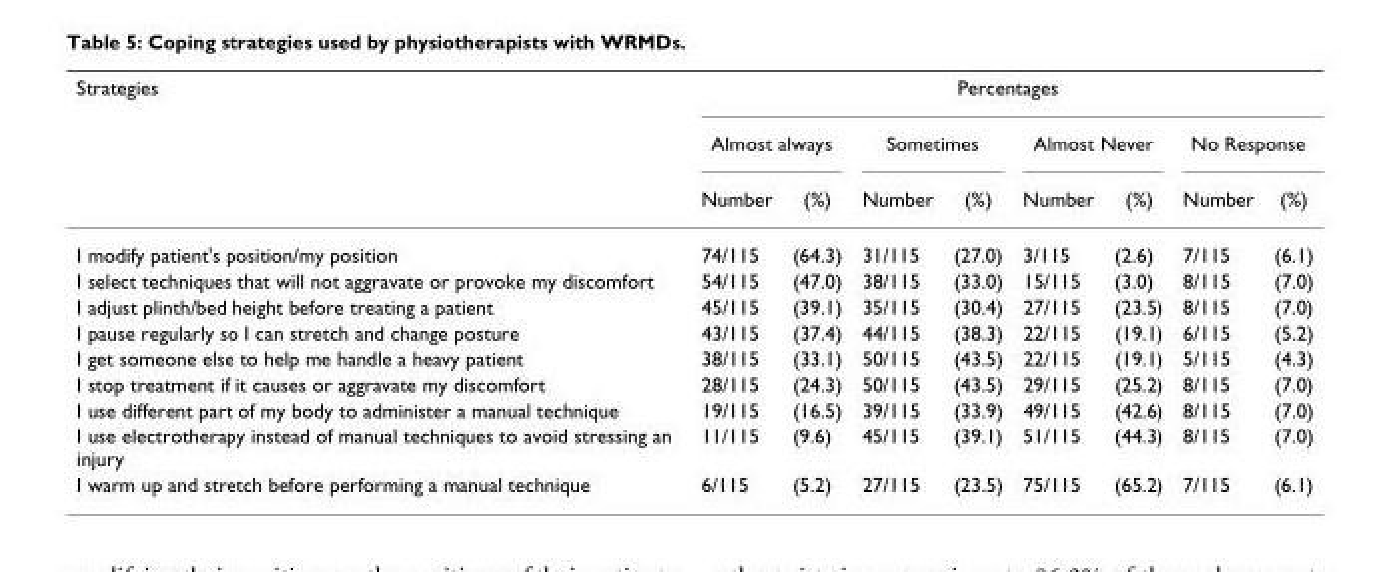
<table><thead><tr><td rowspan="3">Strategies</td><td colspan="8">Percentages</td></tr><tr><td colspan="2">Almost always</td><td colspan="2">Sometimes</td><td colspan="2">Almost Never</td><td colspan="2">No Response</td></tr><tr><td>Number</td><td>(%)</td><td>Number</td><td>(%)</td><td>Number</td><td>(%)</td><td>Number</td><td>(%)</td></tr></thead><tbody><tr><td>I modify patient&#x27;s position/my position</td><td>74/115</td><td>(64.3)</td><td>31/115</td><td>(27.0)</td><td>3/115</td><td>(2.6)</td><td>7/115</td><td>(6.1)</td></tr><tr><td>I select techniques that will not aggravate or provoke my discomfort</td><td>54/115</td><td>(47.0)</td><td>38/115</td><td>(33.0)</td><td>15/115</td><td>(3.0)</td><td>8/115</td><td>(7.0)</td></tr><tr><td>I adjust plinth/bed height before treating a patient</td><td>45/115</td><td>(39.1)</td><td>35/115</td><td>(30.4)</td><td>27/115</td><td>(23.5)</td><td>8/115</td><td>(7.0)</td></tr><tr><td>I pause regularly so I can stretch and change posture</td><td>43/115</td><td>(37.4)</td><td>44/115</td><td>(38.3)</td><td>22/115</td><td>(19.1)</td><td>6/115</td><td>(5.2)</td></tr><tr><td>I get someone else to help me handle a heavy patient</td><td>38/115</td><td>(33.1)</td><td>50/115</td><td>(43.5)</td><td>22/115</td><td>(19.1)</td><td>5/115</td><td>(4.3)</td></tr><tr><td>I stop treatment if it causes or aggravate my discomfort</td><td>28/115</td><td>(24.3)</td><td>50/115</td><td>(43.5)</td><td>29/115</td><td>(25.2)</td><td>8/115</td><td>(7.0)</td></tr><tr><td>I use different part of my body to administer a manual technique</td><td>19/115</td><td>(16.5)</td><td>39/115</td><td>(33.9)</td><td>49/115</td><td>(42.6)</td><td>8/115</td><td>(7.0)</td></tr><tr><td>I use electrotherapy instead of manual techniques to avoid stressing an injury</td><td>11/115</td><td>(9.6)</td><td>45/115</td><td>(39.1)</td><td>51/115</td><td>(44.3)</td><td>8/115</td><td>(7.0)</td></tr><tr><td>I warm up and stretch before performing a manual technique</td><td>6/115</td><td>(5.2)</td><td>27/115</td><td>(23.5)</td><td>75/115</td><td>(65.2)</td><td>7/115</td><td>(6.1)</td></tr></tbody></table>